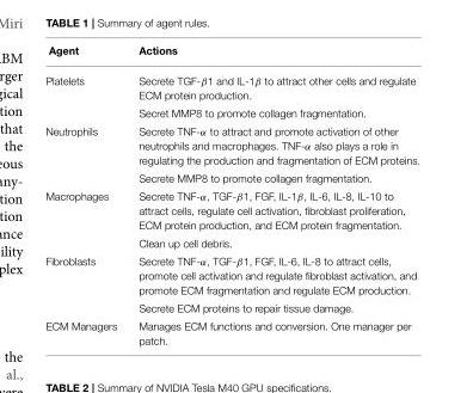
<table><thead><tr><td>Agent</td><td>Actions</td></tr></thead><tbody><tr><td rowspan="2">Platelets</td><td>Secrete TGF-β1 and IL-1β to attract other cells and regulate ECM protein production.</td></tr><tr><td>Secret MMP8 to promote collagen fragmentation.</td></tr><tr><td rowspan="2">Neutrophils</td><td>Secrete TNF-α to attract and promote activation of other neutrophils and macrophages. TNF-α also plays a role in regulating the production and fragmentation of ECM proteins.</td></tr><tr><td>Secrete MMP8 to promote collagen fragmentation.</td></tr><tr><td rowspan="2">Macrophages</td><td>Secrete TNF-α, TGF-β1, FGF, IL-1β, IL-6, IL-8, IL-10 to attract cells, regulate cell activation, fibroblast proliferation, ECM protein production, and ECM protein fragmentation.</td></tr><tr><td>Clean up cell debris.</td></tr><tr><td rowspan="2">Fibroblasts</td><td>Secrete TNF-α, TGF-β1, FGF, IL-6, IL-8 to attract cells, promote cell activation and regulate fibroblast activation, and promote ECM fragmentation and regulate ECM production.</td></tr><tr><td>Secrete ECM proteins to repair tissue damage.</td></tr><tr><td>ECM Managers</td><td>Manages ECM functions and conversion. One manager per patch.</td></tr></tbody></table>